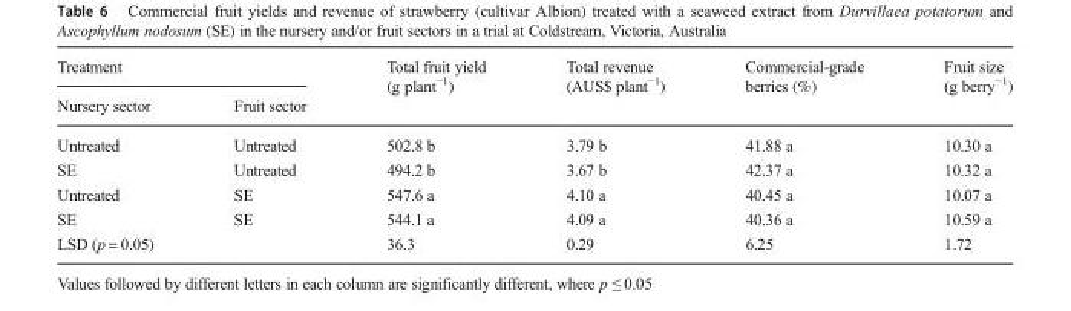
<table><thead><tr><td colspan="2">Treatment</td><td rowspan="2">Total fruit yield (g plant<sup>−1</sup>)</td><td rowspan="2">Total revenue (AUS$ plant<sup>−1</sup>)</td><td rowspan="2">Commercial-grade berries (%)</td><td rowspan="2">Fruit size (g berry<sup>−1</sup>)</td></tr><tr><td>Nursery sector</td><td>Fruit sector</td></tr></thead><tbody><tr><td>Untreated</td><td>Untreated</td><td>502.8 b</td><td>3.79 b</td><td>41.88 a</td><td>10.30 a</td></tr><tr><td>SE</td><td>Untreated</td><td>494.2 b</td><td>3.67 b</td><td>42.37 a</td><td>10.32 a</td></tr><tr><td>Untreated</td><td>SE</td><td>547.6 a</td><td>4.10 a</td><td>40.45 a</td><td>10.07 a</td></tr><tr><td>SE</td><td>SE</td><td>544.1 a</td><td>4.09 a</td><td>40.36 a</td><td>10.59 a</td></tr><tr><td>LSD (p = 0.05)</td><td></td><td>36.3</td><td>0.29</td><td>6.25</td><td>1.72</td></tr></tbody></table>